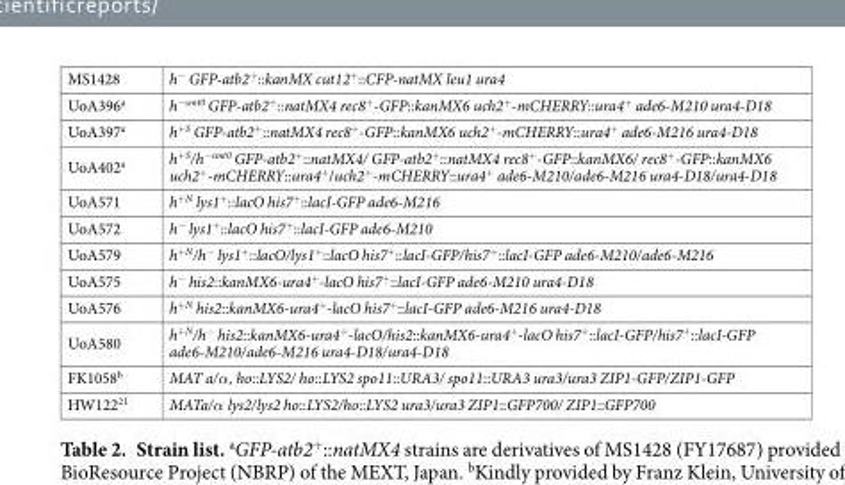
<table><tbody><tr><td>MS1428</td><td>h<sup>−</sup> GFP-atb2<sup>+</sup>::kanMX cut12<sup>+</sup>::CFP-natMX leu1 ura4</td></tr><tr><td>UoA396<sup>a</sup></td><td>h<sup>−smt0</sup> GFP-atb2<sup>+</sup>::natMX4 rec8<sup>+</sup>-GFP::kanMX6 uch2<sup>+</sup>-mCHERRY::ura4<sup>+</sup> ade6-M210 ura4-D18</td></tr><tr><td>UoA397<sup>a</sup></td><td>h<sup>+S</sup> GFP-atb2<sup>+</sup>::natMX4 rec8<sup>+</sup>-GFP::kanMX6 uch2<sup>+</sup>-mCHERRY::ura4<sup>+</sup> ade6-M216 ura4-D18</td></tr><tr><td>UoA402<sup>a</sup></td><td>h<sup>+S</sup>/h<sup>−smt0</sup> GFP-atb2<sup>+</sup>::natMX4/ GFP-atb2<sup>+</sup>::natMX4 rec8<sup>+</sup>-GFP::kanMX6/ rec8<sup>+</sup>-GFP::kanMX6 uch2<sup>+</sup>-mCHERRY::ura4<sup>+</sup>/uch2<sup>+</sup>-mCHERRY::ura4<sup>+</sup> ade6-M210/ade6-M216 ura4-D18/ura4-D18</td></tr><tr><td>UoA571</td><td>h<sup>+N</sup> lys1<sup>+</sup>::lacO his7<sup>+</sup>::lacI-GFP ade6-M216</td></tr><tr><td>UoA572</td><td>h<sup>−</sup> lys1<sup>+</sup>::lacO his7<sup>+</sup>::lacI-GFP ade6-M210</td></tr><tr><td>UoA579</td><td>h<sup>+N</sup>/h<sup>−</sup> lys1<sup>+</sup>::lacO/lys1<sup>+</sup>::lacO his7<sup>+</sup>::lacI-GFP/his7<sup>+</sup>::lacI-GFP ade6-M210/ade6-M216</td></tr><tr><td>UoA575</td><td>h<sup>−</sup> his2::kanMX6-ura4<sup>+</sup>-lacO his7<sup>+</sup>::lacI-GFP ade6-M210 ura4-D18</td></tr><tr><td>UoA576</td><td>h<sup>+N</sup> his2::kanMX6-ura4<sup>+</sup>-lacO his7<sup>+</sup>::lacI-GFP ade6-M216 ura4-D18</td></tr><tr><td>UoA580</td><td>h<sup>+N</sup>/h<sup>−</sup> his2::kanMX6-ura4<sup>+</sup>-lacO/his2::kanMX6-ura4<sup>+</sup>-lacO his7<sup>+</sup>::lacI-GFP/his7<sup>+</sup>::lacI-GFP ade6-M210/ade6-M216 ura4-D18/ura4-D18</td></tr><tr><td>FK1058<sup>b</sup></td><td>MAT a/α , ho::LYS2/ ho::LYS2 spo11::URA3/ spo11::URA3 ura3/ura3 ZIP1-GFP/ZIP1-GFP</td></tr><tr><td>HW122<sup>21</sup></td><td>MATa/α lys2/lys2 ho::LYS2/ho::LYS2 ura3/ura3 ZIP1::GFP700/ ZIP1::GFP700</td></tr></tbody></table>